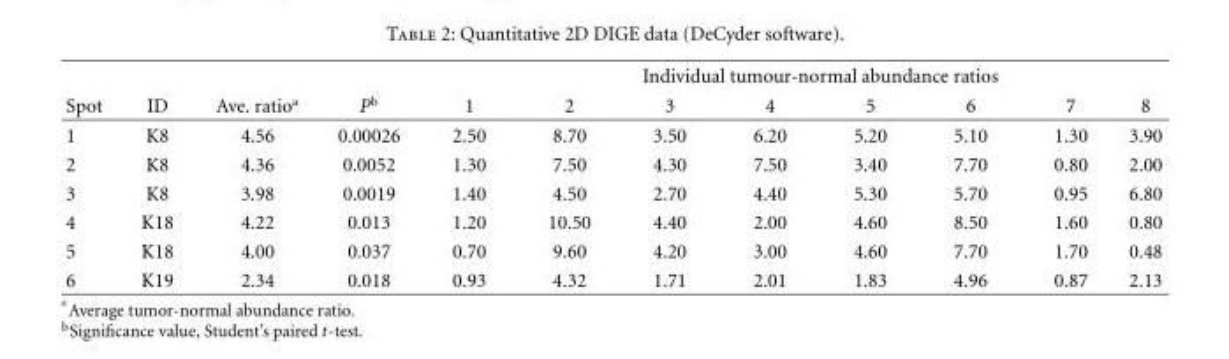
<table><thead><tr><td rowspan="2">Spot</td><td rowspan="2">ID</td><td rowspan="2">Ave. ratio<sup>a</sup></td><td rowspan="2">P<sup>b</sup></td><td rowspan="2">1</td><td rowspan="2">2</td><td colspan="4">Individual tumour-normal abundance ratios</td><td rowspan="2">7</td><td rowspan="2">8</td></tr><tr><td>3</td><td>4</td><td>5</td><td>6</td></tr></thead><tbody><tr><td>1</td><td>K8</td><td>4.56</td><td>0.00026</td><td>2.50</td><td>8.70</td><td>3.50</td><td>6.20</td><td>5.20</td><td>5.10</td><td>1.30</td><td>3.90</td></tr><tr><td>2</td><td>K8</td><td>4.36</td><td>0.0052</td><td>1.30</td><td>7.50</td><td>4.30</td><td>7.50</td><td>3.40</td><td>7.70</td><td>0.80</td><td>2.00</td></tr><tr><td>3</td><td>K8</td><td>3.98</td><td>0.0019</td><td>1.40</td><td>4.50</td><td>2.70</td><td>4.40</td><td>5.30</td><td>5.70</td><td>0.95</td><td>6.80</td></tr><tr><td>4</td><td>K18</td><td>4.22</td><td>0.013</td><td>1.20</td><td>10.50</td><td>4.40</td><td>2.00</td><td>4.60</td><td>8.50</td><td>1.60</td><td>0.80</td></tr><tr><td>5</td><td>K18</td><td>4.00</td><td>0.037</td><td>0.70</td><td>9.60</td><td>4.20</td><td>3.00</td><td>4.60</td><td>7.70</td><td>1.70</td><td>0.48</td></tr><tr><td>6</td><td>K19</td><td>2.34</td><td>0.018</td><td>0.93</td><td>4.32</td><td>1.71</td><td>2.01</td><td>1.83</td><td>4.96</td><td>0.87</td><td>2.13</td></tr></tbody></table>